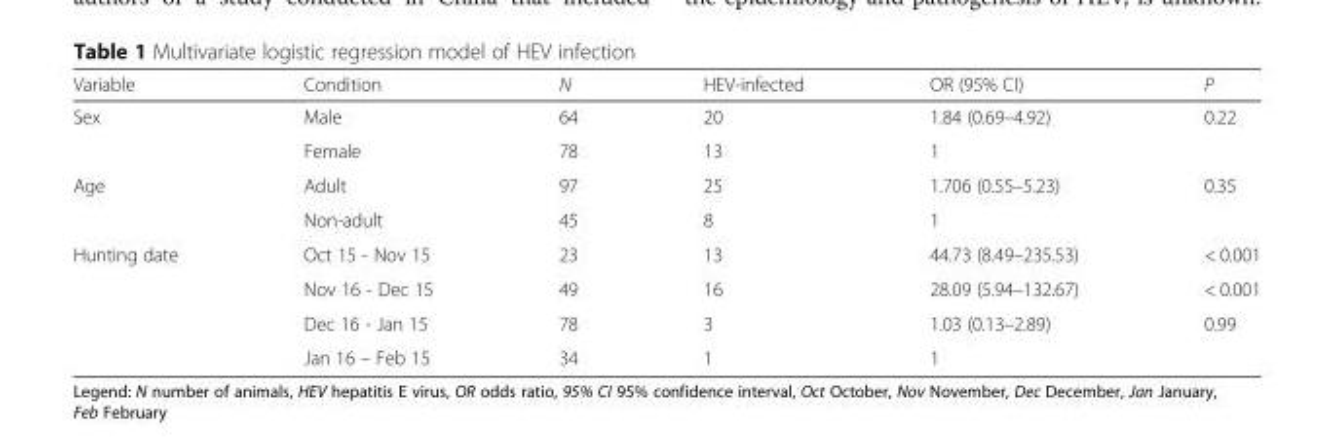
<table><thead><tr><td>Variable</td><td>Condition</td><td>N</td><td>HEV-infected</td><td>OR (95% CI)</td><td>P</td></tr></thead><tbody><tr><td rowspan="2">Sex</td><td>Male</td><td>64</td><td>20</td><td>1.84 (0.69–4.92)</td><td>0.22</td></tr><tr><td>Female</td><td>78</td><td>13</td><td>1</td><td></td></tr><tr><td rowspan="2">Age</td><td>Adult</td><td>97</td><td>25</td><td>1.706 (0.55–5.23)</td><td>0.35</td></tr><tr><td>Non-adult</td><td>45</td><td>8</td><td>1</td><td></td></tr><tr><td rowspan="4">Hunting date</td><td>Oct 15 - Nov 15</td><td>23</td><td>13</td><td>44.73 (8.49–235.53)</td><td>&lt; 0.001</td></tr><tr><td>Nov 16 - Dec 15</td><td>49</td><td>16</td><td>28.09 (5.94–132.67)</td><td>&lt; 0.001</td></tr><tr><td>Dec 16 - Jan 15</td><td>78</td><td>3</td><td>1.03 (0.13–2.89)</td><td>0.99</td></tr><tr><td>Jan 16 – Feb 15</td><td>34</td><td>1</td><td>1</td><td></td></tr></tbody></table>